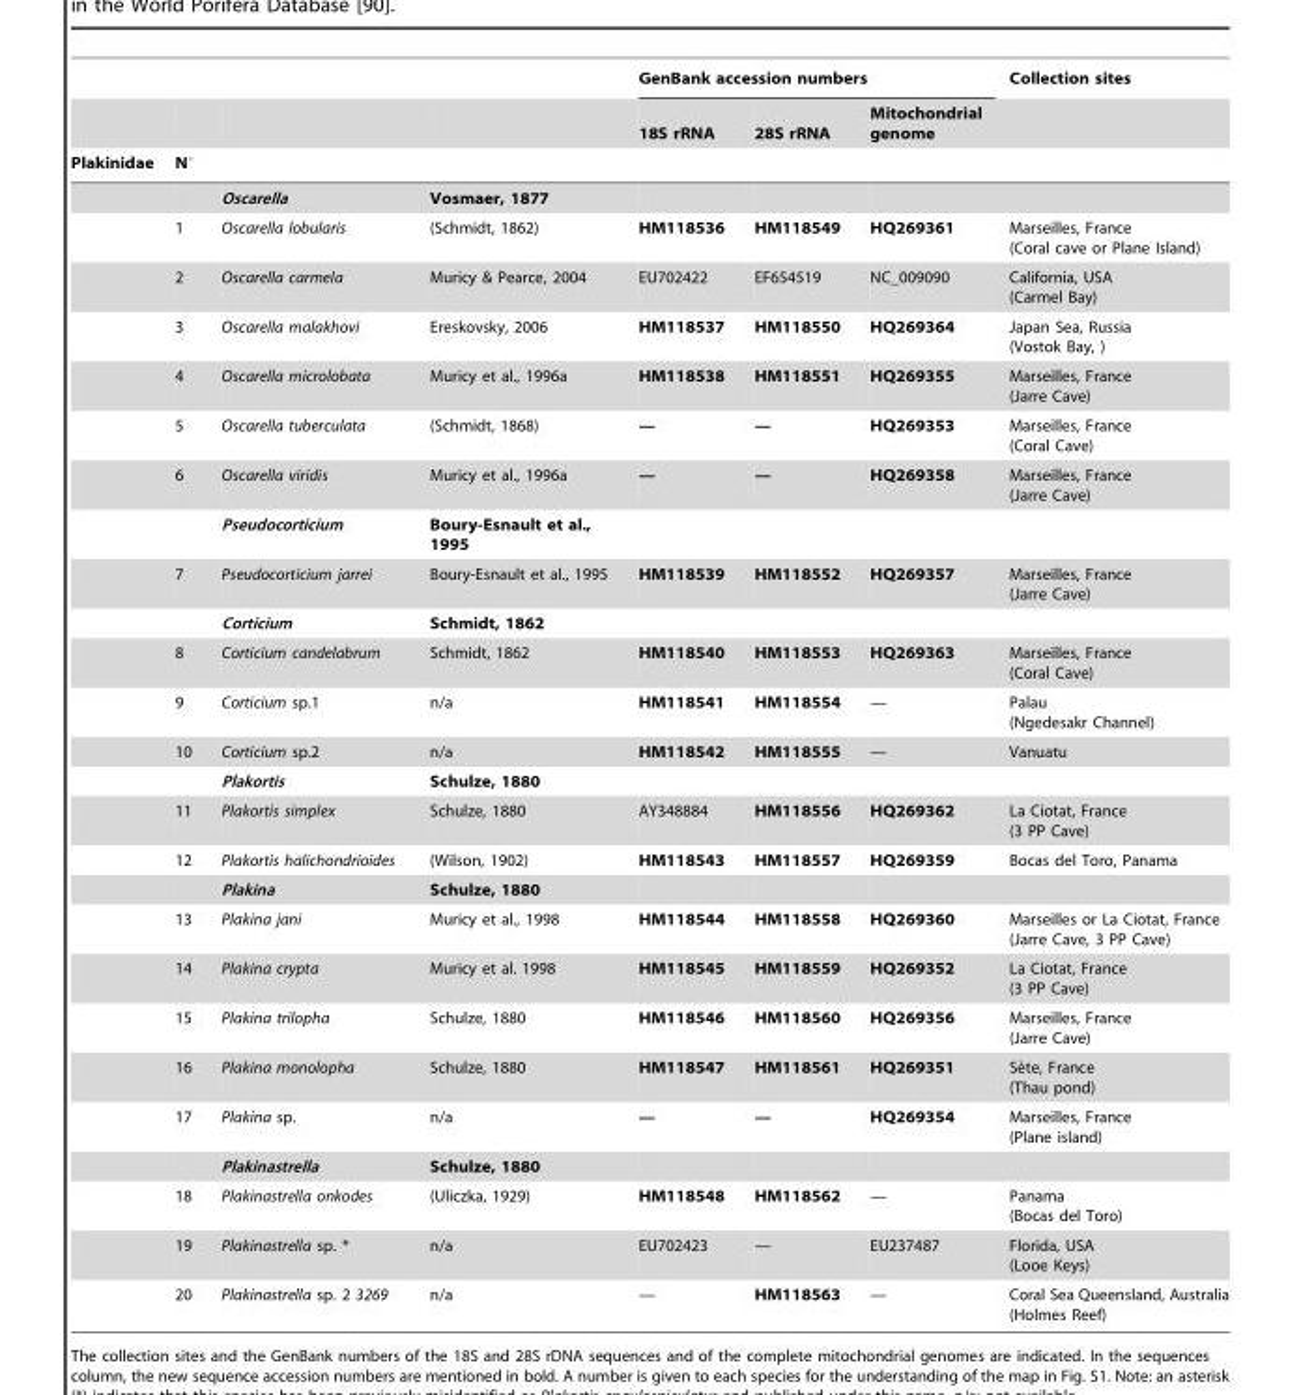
<table><thead><tr><td rowspan="3">Plakinidae</td><td rowspan="3">N°</td><td rowspan="3"></td><td rowspan="3"></td><td colspan="3">GenBank accession numbers</td><td rowspan="3">Collection sites</td></tr><tr><td rowspan="2">18S rRNA</td><td rowspan="2">28S rRNA</td><td rowspan="2">Mitochondrial genome</td></tr><tr></tr></thead><tbody><tr><td></td><td></td><td>Oscarella</td><td>Vosmaer, 1877</td><td></td><td></td><td></td><td></td></tr><tr><td></td><td>1</td><td>Oscarella lobularis</td><td>(Schmidt, 1862)</td><td>HM118536</td><td>HM118549</td><td>HQ269361</td><td>Marseilles, France (Coral cave or Plane Island)</td></tr><tr><td></td><td>2</td><td>Oscarella carmela</td><td>Muricy &amp; Pearce, 2004</td><td>EU702422</td><td>EF654519</td><td>NC_009090</td><td>California, USA (Carmel Bay)</td></tr><tr><td></td><td>3</td><td>Oscarella malakhovi</td><td>Ereskovsky, 2006</td><td>HM118537</td><td>HM118550</td><td>HQ269364</td><td>Japan Sea, Russia (Vostok Bay, )</td></tr><tr><td></td><td>4</td><td>Oscarella microlobata</td><td>Muricy et al., 1996a</td><td>HM118538</td><td>HM118551</td><td>HQ269355</td><td>Marseilles, France (Jarre Cave)</td></tr><tr><td></td><td>5</td><td>Oscarella tuberculata</td><td>(Schmidt, 1868)</td><td>—</td><td>—</td><td>HQ269353</td><td>Marseilles, France (Coral Cave)</td></tr><tr><td></td><td>6</td><td>Oscarella viridis</td><td>Muricy et al., 1996a</td><td>—</td><td>—</td><td>HQ269358</td><td>Marseilles, France (Jarre Cave)</td></tr><tr><td></td><td></td><td>Pseudocorticium</td><td>Boury-Esnault et al., 1995</td><td></td><td></td><td></td><td></td></tr><tr><td></td><td>7</td><td>Pseudocorticium jarrei</td><td>Boury-Esnault et al., 1995</td><td>HM118539</td><td>HM118552</td><td>HQ269357</td><td>Marseilles, France (Jarre Cave)</td></tr><tr><td></td><td></td><td>Corticium</td><td>Schmidt, 1862</td><td></td><td></td><td></td><td></td></tr><tr><td></td><td>8</td><td>Corticium candelabrum</td><td>Schmidt, 1862</td><td>HM118540</td><td>HM118553</td><td>HQ269363</td><td>Marseilles, France (Coral Cave)</td></tr><tr><td></td><td>9</td><td>Corticium sp.1</td><td>n/a</td><td>HM118541</td><td>HM118554</td><td>—</td><td>Palau (Ngedesakr Channel)</td></tr><tr><td></td><td>10</td><td>Corticium sp.2</td><td>n/a</td><td>HM118542</td><td>HM118555</td><td>—</td><td>Vanuatu</td></tr><tr><td></td><td></td><td>Plakortis</td><td>Schulze, 1880</td><td></td><td></td><td></td><td></td></tr><tr><td></td><td>11</td><td>Plakortis simplex</td><td>Schulze, 1880</td><td>AY348884</td><td>HM118556</td><td>HQ269362</td><td>La Ciotat, France (3 PP Cave)</td></tr><tr><td></td><td>12</td><td>Plakortis halichondrioides</td><td>(Wilson, 1902)</td><td>HM118543</td><td>HM118557</td><td>HQ269359</td><td>Bocas del Toro, Panama</td></tr><tr><td></td><td></td><td>Plakina</td><td>Schulze, 1880</td><td></td><td></td><td></td><td></td></tr><tr><td></td><td>13</td><td>Plakina jani</td><td>Muricy et al., 1998</td><td>HM118544</td><td>HM118558</td><td>HQ269360</td><td>Marseilles or La Ciotat, France (Jarre Cave, 3 PP Cave)</td></tr><tr><td></td><td>14</td><td>Plakina crypta</td><td>Muricy et al. 1998</td><td>HM118545</td><td>HM118559</td><td>HQ269352</td><td>La Ciotat, France (3 PP Cave)</td></tr><tr><td></td><td>15</td><td>Plakina trilopha</td><td>Schulze, 1880</td><td>HM118546</td><td>HM118560</td><td>HQ269356</td><td>Marseilles, France (Jarre Cave)</td></tr><tr><td></td><td>16</td><td>Plakina monolopha</td><td>Schulze, 1880</td><td>HM118547</td><td>HM118561</td><td>HQ269351</td><td>Se`te, France (Thau pond)</td></tr><tr><td></td><td>17</td><td>Plakina sp.</td><td>n/a</td><td>—</td><td>—</td><td>HQ269354</td><td>Marseilles, France (Plane island)</td></tr><tr><td></td><td></td><td>Plakinastrella</td><td>Schulze, 1880</td><td></td><td></td><td></td><td></td></tr><tr><td></td><td>18</td><td>Plakinastrella onkodes</td><td>(Uliczka, 1929)</td><td>HM118548</td><td>HM118562</td><td>—</td><td>Panama (Bocas del Toro)</td></tr><tr><td></td><td>19</td><td>Plakinastrella sp. *</td><td>n/a</td><td>EU702423</td><td>—</td><td>EU237487</td><td>Florida, USA (Looe Keys)</td></tr><tr><td></td><td>20</td><td>Plakinastrella sp. 2 3269</td><td>n/a</td><td>—</td><td>HM118563</td><td>—</td><td>Coral Sea Queensland, Australia (Holmes Reef)</td></tr></tbody></table>